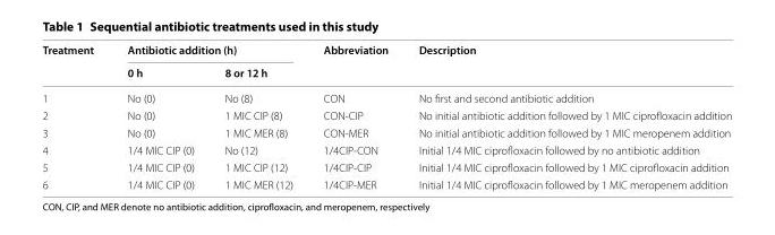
<table><thead><tr><td rowspan="2">Treatment</td><td colspan="2">Antibiotic addition (h)</td><td rowspan="2">Abbreviation</td><td rowspan="2">Description</td></tr><tr><td>0 h</td><td>8 or 12 h</td></tr></thead><tbody><tr><td>1</td><td>No (0)</td><td>No (8)</td><td>CON</td><td>No first and second antibiotic addition</td></tr><tr><td>2</td><td>No (0)</td><td>1 MIC CIP (8)</td><td>CON-CIP</td><td>No initial antibiotic addition followed by 1 MIC ciprofloxacin addition</td></tr><tr><td>3</td><td>No (0)</td><td>1 MIC MER (8)</td><td>CON-MER</td><td>No initial antibiotic addition followed by 1 MIC meropenem addition</td></tr><tr><td>4</td><td>1/4 MIC CIP (0)</td><td>No (12)</td><td>1/4CIP-CON</td><td>Initial 1/4 MIC ciprofloxacin followed by no antibiotic addition</td></tr><tr><td>5</td><td>1/4 MIC CIP (0)</td><td>1 MIC CIP (12)</td><td>1/4CIP-CIP</td><td>Initial 1/4 MIC ciprofloxacin followed by 1 MIC ciprofloxacin addition</td></tr><tr><td>6</td><td>1/4 MIC CIP (0)</td><td>1 MIC MER (12)</td><td>1/4CIP-MER</td><td>Initial 1/4 MIC ciprofloxacin followed by 1 MIC meropenem addition</td></tr></tbody></table>